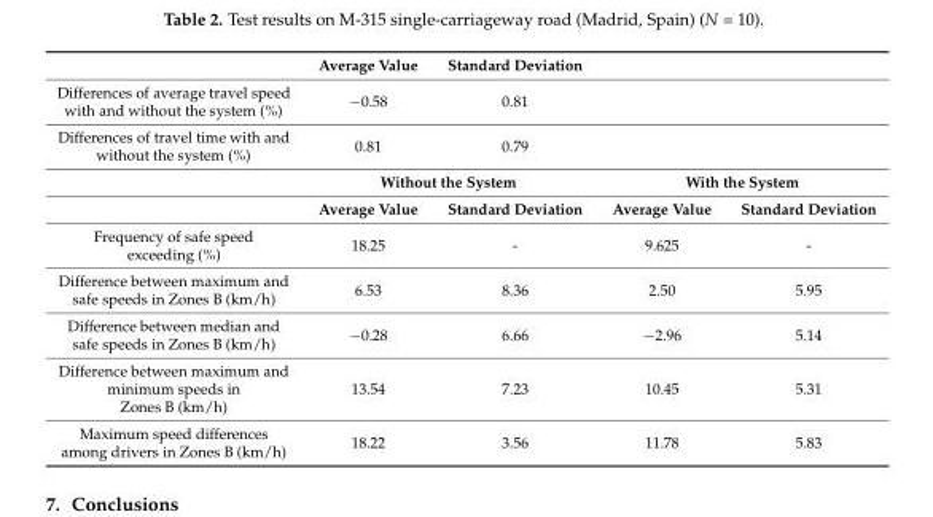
<table><thead><tr><td></td><td>Average Value</td><td>Standard Deviation</td><td></td><td></td></tr></thead><tbody><tr><td>Differences of average travel speed with and without the system (%)</td><td>−0.58</td><td>0.81</td><td></td><td></td></tr><tr><td rowspan="3">Differences of travel time with and without the system (%)</td><td>0.81</td><td>0.79</td><td></td><td></td></tr><tr><td colspan="2">Without the System</td><td colspan="2">With the System</td></tr><tr><td>Average Value</td><td>Standard Deviation</td><td>Average Value</td><td>Standard Deviation</td></tr><tr><td>Frequency of safe speed exceeding (%)</td><td>18.25</td><td>-</td><td>9.625</td><td>-</td></tr><tr><td>Difference between maximum and safe speeds in Zones B (km/h)</td><td>6.53</td><td>8.36</td><td>2.50</td><td>5.95</td></tr><tr><td>Difference between median and safe speeds in Zones B (km/h)</td><td>−0.28</td><td>6.66</td><td>−2.96</td><td>5.14</td></tr><tr><td>Difference between maximum and minimum speeds in Zones B (km/h)</td><td>13.54</td><td>7.23</td><td>10.45</td><td>5.31</td></tr><tr><td>Maximum speed differences among drivers in Zones B (km/h)</td><td>18.22</td><td>3.56</td><td>11.78</td><td>5.83</td></tr></tbody></table>